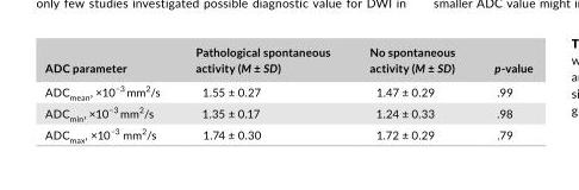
<table><thead><tr><td>ADC parameter</td><td>Pathological spontaneous activity (M ± SD)</td><td>No spontaneous activity (M ± SD)</td><td>p- value</td></tr></thead><tbody><tr><td>ADC<sub>mean</sub>, ×10<sup>−3</sup> mm<sup>2</sup>/s</td><td>1.55 ± 0.27</td><td>1.47 ± 0.29</td><td>.99</td></tr><tr><td>ADC<sub>min</sub>, ×10<sup>−3</sup> mm<sup>2</sup>/s</td><td>1.35 ± 0.17</td><td>1.24 ± 0.33</td><td>.98</td></tr><tr><td>ADC<sub>max</sub>, ×10<sup>−3</sup> mm<sup>2</sup>/s</td><td>1.74 ± 0.30</td><td>1.72 ± 0.29</td><td>.79</td></tr></tbody></table>